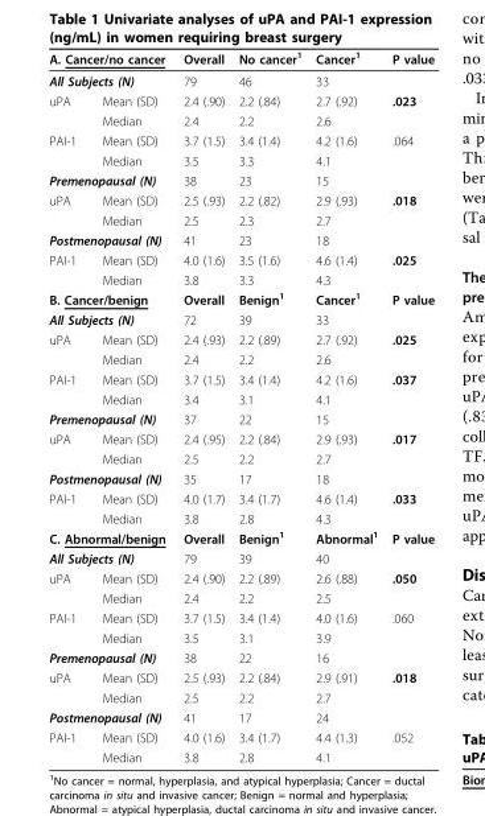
<table><thead><tr><td rowspan="2" colspan="2">A. Cancer/no cancer All Subjects (N)</td><td rowspan="3">Overall 79 2.4 (.90)</td><td rowspan="3">No cancer<sup>1</sup> 46 2.2 (.84)</td><td rowspan="3">Cancer1 33 2.7 (.92)</td><td rowspan="3">P value .023</td></tr><tr></tr><tr><td>uPA</td><td>Mean (SD)</td></tr></thead><tbody><tr><td></td><td>Median</td><td>2.4</td><td>2.2</td><td>2.6</td><td></td></tr><tr><td rowspan="2">PAI-1</td><td>Mean (SD)</td><td>3.7 (1.5)</td><td>3.4 (1.4)</td><td>4.2 (1.6)</td><td>.064</td></tr><tr><td>Median</td><td>3.5</td><td>3.3</td><td>4.1</td><td></td></tr><tr><td colspan="2">Premenopausal (N)</td><td>38</td><td>23</td><td>15</td><td></td></tr><tr><td rowspan="2">uPA</td><td>Mean (SD)</td><td>2.5 (.93)</td><td>2.2 (.82)</td><td>2.9 (.93)</td><td>.018</td></tr><tr><td>Median</td><td>2.5</td><td>2.3</td><td>2.7</td><td></td></tr><tr><td colspan="2">Postmenopausal (N)</td><td>41</td><td>23</td><td>18</td><td></td></tr><tr><td rowspan="2">PAI-1</td><td>Mean (SD)</td><td>4.0 (1.6)</td><td>3.5 (1.6)</td><td>4.6 (1.4)</td><td>.025</td></tr><tr><td>Median</td><td>3.8</td><td>3.3</td><td>4.3</td><td></td></tr><tr><td colspan="2">B. Cancer/benign</td><td>Overall</td><td>Benign<sup>1</sup></td><td>Cancer1</td><td>P value</td></tr><tr><td colspan="2">All Subjects (N)</td><td>72</td><td>39</td><td>33</td><td></td></tr><tr><td rowspan="2">uPA</td><td>Mean (SD)</td><td>2.4 (.93)</td><td>2.2 (.89)</td><td>2.7 (.92)</td><td>.025</td></tr><tr><td>Median</td><td>2.4</td><td>2.2</td><td>2.6</td><td></td></tr><tr><td rowspan="2">PAI-1</td><td>Mean (SD)</td><td>3.7 (1.5)</td><td>3.4 (1.4)</td><td>4.2 (1.6)</td><td>.037</td></tr><tr><td>Median</td><td>3.4</td><td>3.1</td><td>4.1</td><td></td></tr><tr><td colspan="2">Premenopausal (N)</td><td>37</td><td>22</td><td>15</td><td></td></tr><tr><td rowspan="2">uPA</td><td>Mean (SD)</td><td>2.4 (.95)</td><td>2.2 (.84)</td><td>2.9 (.93)</td><td>.017</td></tr><tr><td>Median</td><td>2.5</td><td>2.2</td><td>2.7</td><td></td></tr><tr><td colspan="2">Postmenopausal (N)</td><td>35</td><td>17</td><td>18</td><td></td></tr><tr><td rowspan="2">PAI-1</td><td>Mean (SD)</td><td>4.0 (1.7)</td><td>3.4 (1.7)</td><td>4.6 (1.4)</td><td>.033</td></tr><tr><td>Median</td><td>3.8</td><td>2.8</td><td>4.3</td><td></td></tr><tr><td colspan="2">C. Abnormal/benign</td><td>Overall</td><td>Benign<sup>1</sup></td><td>Abnormal<sup>1</sup></td><td>P value</td></tr><tr><td colspan="2">All Subjects (N)</td><td>79</td><td>39</td><td>40</td><td></td></tr><tr><td rowspan="2">uPA</td><td>Mean (SD)</td><td>2.4 (.90)</td><td>2.2 (.89)</td><td>2.6 (.88)</td><td>.050</td></tr><tr><td>Median</td><td>2.4</td><td>2.2</td><td>2.5</td><td></td></tr><tr><td rowspan="2">PAI-1</td><td>Mean (SD)</td><td>3.7 (1.5)</td><td>3.4 (1.4)</td><td>4.0 (1.6)</td><td>.060</td></tr><tr><td>Median</td><td>3.5</td><td>3.1</td><td>3.9</td><td></td></tr><tr><td colspan="2">Premenopausal (N)</td><td>38</td><td>22</td><td>16</td><td></td></tr><tr><td rowspan="2">uPA</td><td>Mean (SD)</td><td>2.5 (.93)</td><td>2.2 (.84)</td><td>2.9 (.91)</td><td>.018</td></tr><tr><td>Median</td><td>2.5</td><td>2.2</td><td>2.7</td><td></td></tr><tr><td colspan="2">Postmenopausal (N)</td><td>41</td><td>17</td><td>24</td><td></td></tr><tr><td rowspan="2">PAI-1</td><td>Mean (SD)</td><td>4.0 (1.6)</td><td>3.4 (1.7)</td><td>4.4 (1.3)</td><td>.052</td></tr><tr><td>Median</td><td>3.8</td><td>2.8</td><td>4.1</td><td></td></tr></tbody></table>